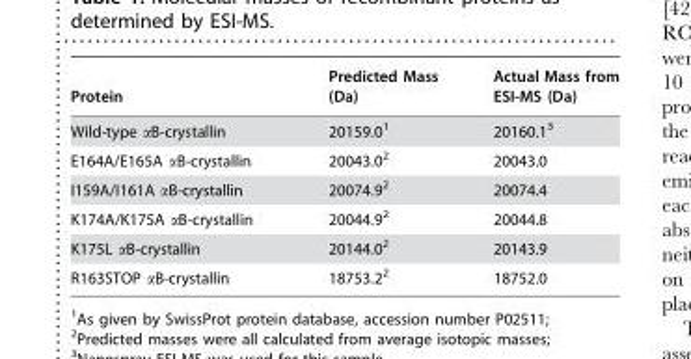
<table><thead><tr><td>Protein</td><td>Predicted Mass (Da)</td><td>Actual Mass from ESI-MS (Da)</td></tr></thead><tbody><tr><td>Wild-type αB-crystallin</td><td>20159.0<sup>1</sup></td><td>20160.1<sup>3</sup></td></tr><tr><td>E164A/E165A αB-crystallin</td><td>20043.0<sup>2</sup></td><td>20043.0</td></tr><tr><td>I159A/I161A αB-crystallin</td><td>20074.9<sup>2</sup></td><td>20074.4</td></tr><tr><td>K174A/K175A αB-crystallin</td><td>20044.9<sup>2</sup></td><td>20044.8</td></tr><tr><td>K175L αB-crystallin</td><td>20144.0<sup>2</sup></td><td>20143.9</td></tr><tr><td>R163STOP αB-crystallin</td><td>18753.2<sup>2</sup></td><td>18752.0</td></tr></tbody></table>